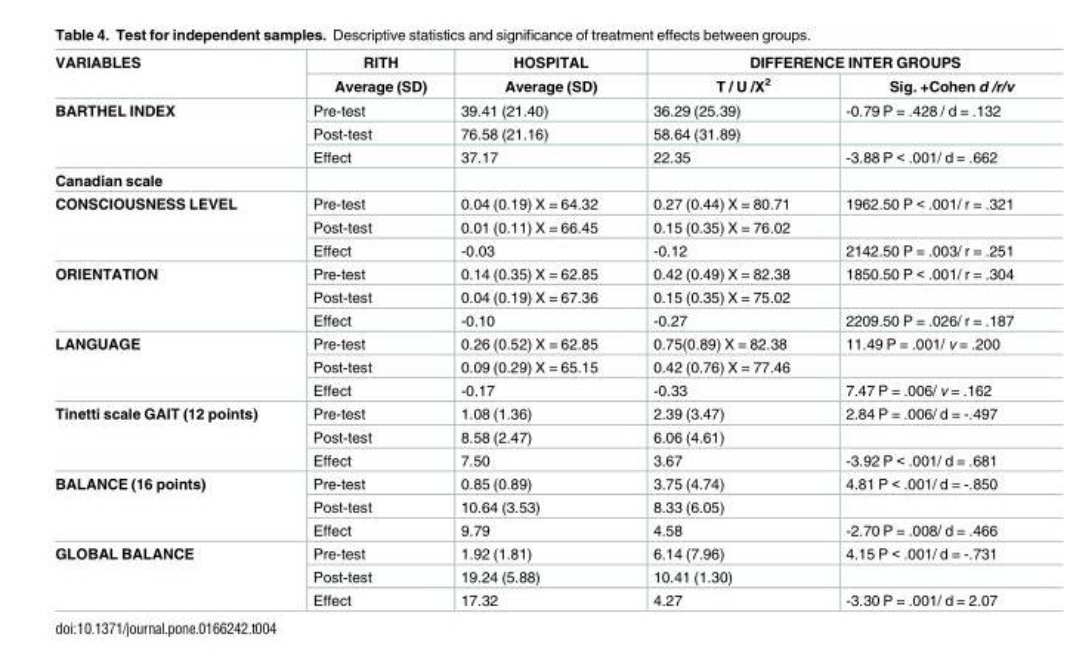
<table><thead><tr><td rowspan="2">VARIABLES</td><td rowspan="2">RITH Average (SD)</td><td rowspan="2">HOSPITAL Average (SD)</td><td colspan="2">DIFFERENCE INTER GROUPS</td></tr><tr><td>T / U /X<sup>2</sup></td><td>Sig. +Cohen d /r/v</td></tr></thead><tbody><tr><td rowspan="3">BARTHEL INDEX</td><td>Pre-test</td><td>39.41 (21.40)</td><td>36.29 (25.39)</td><td>-0.79 P = .428 / d = .132</td></tr><tr><td>Post-test</td><td>76.58 (21.16)</td><td>58.64 (31.89)</td><td></td></tr><tr><td>Effect</td><td>37.17</td><td>22.35</td><td>-3.88 P &lt; .001/ d = .662</td></tr><tr><td colspan="5">Canadian scale</td></tr><tr><td rowspan="3">CONSCIOUSNESS LEVEL</td><td>Pre-test</td><td>0.04 (0.19) X = 64.32</td><td>0.27 (0.44) X = 80.71</td><td>1962.50 P &lt; .001/ r = .321</td></tr><tr><td>Post-test</td><td>0.01 (0.11) X = 66.45</td><td>0.15 (0.35) X = 76.02</td><td></td></tr><tr><td>Effect</td><td>-0.03</td><td>-0.12</td><td>2142.50 P = .003/ r = .251</td></tr><tr><td rowspan="3">ORIENTATION</td><td>Pre-test</td><td>0.14 (0.35) X = 62.85</td><td>0.42 (0.49) X = 82.38</td><td>1850.50 P &lt; .001/ r = .304</td></tr><tr><td>Post-test</td><td>0.04 (0.19) X = 67.36</td><td>0.15 (0.35) X = 75.02</td><td></td></tr><tr><td>Effect</td><td>-0.10</td><td>-0.27</td><td>2209.50 P = .026/ r = .187</td></tr><tr><td rowspan="3">LANGUAGE</td><td>Pre-test</td><td>0.26 (0.52) X = 62.85</td><td>0.75(0.89) X = 82.38</td><td>11.49 P = .001/ v = .200</td></tr><tr><td>Post-test</td><td>0.09 (0.29) X = 65.15</td><td>0.42 (0.76) X = 77.46</td><td></td></tr><tr><td>Effect</td><td>-0.17</td><td>-0.33</td><td>7.47 P = .006/ v = .162</td></tr><tr><td rowspan="3">Tinetti scale GAIT (12 points)</td><td>Pre-test</td><td>1.08 (1.36)</td><td>2.39 (3.47)</td><td>2.84 P = .006/ d = -.497</td></tr><tr><td>Post-test</td><td>8.58 (2.47)</td><td>6.06 (4.61)</td><td></td></tr><tr><td>Effect</td><td>7.50</td><td>3.67</td><td>-3.92 P &lt; .001/ d = .681</td></tr><tr><td rowspan="3">BALANCE (16 points)</td><td>Pre-test</td><td>0.85 (0.89)</td><td>3.75 (4.74)</td><td>4.81 P &lt; .001/ d = -.850</td></tr><tr><td>Post-test</td><td>10.64 (3.53)</td><td>8.33 (6.05)</td><td></td></tr><tr><td>Effect</td><td>9.79</td><td>4.58</td><td>-2.70 P = .008/ d = .466</td></tr><tr><td rowspan="3">GLOBAL BALANCE</td><td>Pre-test</td><td>1.92 (1.81)</td><td>6.14 (7.96)</td><td>4.15 P &lt; .001/ d = -.731</td></tr><tr><td>Post-test</td><td>19.24 (5.88)</td><td>10.41 (1.30)</td><td></td></tr><tr><td>Effect</td><td>17.32</td><td>4.27</td><td>-3.30 P = .001/ d = 2.07</td></tr></tbody></table>